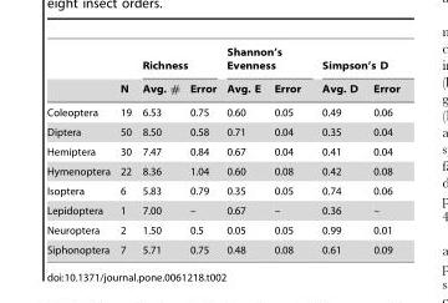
<table><thead><tr><td rowspan="2"></td><td rowspan="2">N</td><td colspan="2">Richness</td><td colspan="2">Shannon’s Evenness</td><td colspan="2">Simpson’s D</td></tr><tr><td>Avg. #</td><td>Error</td><td>Avg. E</td><td>Error</td><td>Avg. D</td><td>Error</td></tr></thead><tbody><tr><td>Coleoptera</td><td>19</td><td>6.53</td><td>0.75</td><td>0.60</td><td>0.05</td><td>0.49</td><td>0.06</td></tr><tr><td>Diptera</td><td>50</td><td>8.50</td><td>0.58</td><td>0.71</td><td>0.04</td><td>0.35</td><td>0.04</td></tr><tr><td>Hemiptera</td><td>30</td><td>7.47</td><td>0.84</td><td>0.67</td><td>0.04</td><td>0.41</td><td>0.04</td></tr><tr><td>Hymenoptera</td><td>22</td><td>8.36</td><td>1.04</td><td>0.60</td><td>0.08</td><td>0.42</td><td>0.08</td></tr><tr><td>Isoptera</td><td>6</td><td>5.83</td><td>0.79</td><td>0.35</td><td>0.05</td><td>0.74</td><td>0.06</td></tr><tr><td>Lepidoptera</td><td>1</td><td>7.00</td><td>–</td><td>0.67</td><td>–</td><td>0.36</td><td>–</td></tr><tr><td>Neuroptera</td><td>2</td><td>1.50</td><td>0.5</td><td>0.05</td><td>0.05</td><td>0.99</td><td>0.01</td></tr><tr><td>Siphonoptera</td><td>7</td><td>5.71</td><td>0.75</td><td>0.48</td><td>0.08</td><td>0.61</td><td>0.09</td></tr></tbody></table>